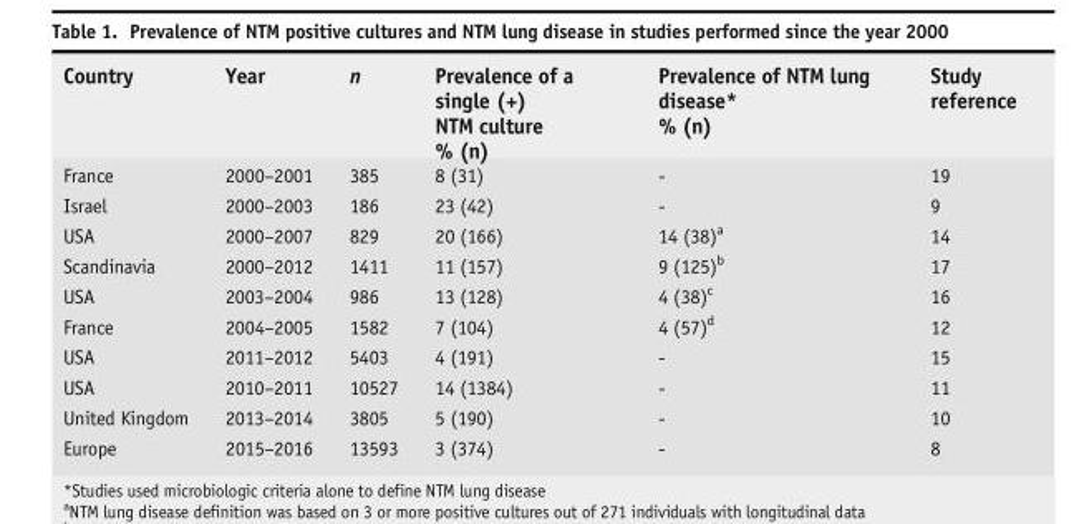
<table><thead><tr><td>Country</td><td>Year</td><td>n</td><td>Prevalence of a single (+) NTM culture % (n)</td><td>Prevalence of NTM lung disease* % (n)</td><td>Study reference</td></tr></thead><tbody><tr><td>France</td><td>2000–2001</td><td>385</td><td>8 (31)</td><td>-</td><td>19</td></tr><tr><td>Israel</td><td>2000–2003</td><td>186</td><td>23 (42)</td><td>-</td><td>9</td></tr><tr><td>USA</td><td>2000–2007</td><td>829</td><td>20 (166)</td><td>14 (38)<sup>a</sup></td><td>14</td></tr><tr><td>Scandinavia</td><td>2000–2012</td><td>1411</td><td>11 (157)</td><td>9 (125)<sup>b</sup></td><td>17</td></tr><tr><td>USA</td><td>2003–2004</td><td>986</td><td>13 (128)</td><td>4 (38)<sup>c</sup></td><td>16</td></tr><tr><td>France</td><td>2004–2005</td><td>1582</td><td>7 (104)</td><td>4 (57)<sup>d</sup></td><td>12</td></tr><tr><td>USA</td><td>2011–2012</td><td>5403</td><td>4 (191)</td><td>-</td><td>15</td></tr><tr><td>USA</td><td>2010–2011</td><td>10527</td><td>14 (1384)</td><td>-</td><td>11</td></tr><tr><td>United Kingdom</td><td>2013–2014</td><td>3805</td><td>5 (190)</td><td>-</td><td>10</td></tr><tr><td>Europe</td><td>2015–2016</td><td>13593</td><td>3 (374)</td><td>-</td><td>8</td></tr></tbody></table>